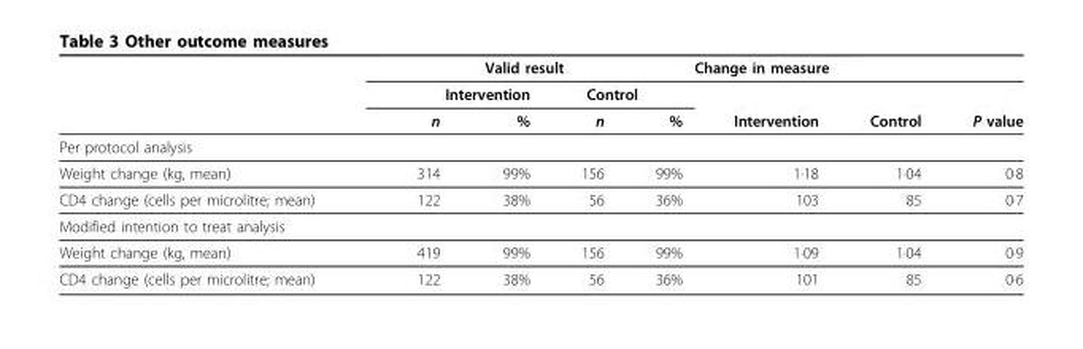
<table><thead><tr><td rowspan="3"></td><td colspan="4">Valid result</td><td colspan="3">Change in measure</td></tr><tr><td colspan="2">Intervention</td><td colspan="2">Control</td><td rowspan="2">Intervention</td><td rowspan="2">Control</td><td rowspan="2">P value</td></tr><tr><td>n</td><td>%</td><td>n</td><td>%</td></tr></thead><tbody><tr><td colspan="8">Per protocol analysis</td></tr><tr><td>Weight change (kg, mean)</td><td>314</td><td>99%</td><td>156</td><td>99%</td><td>1·18</td><td>1·04</td><td>0·8</td></tr><tr><td>CD4 change (cells per microlitre; mean)</td><td>122</td><td>38%</td><td>56</td><td>36%</td><td>103</td><td>85</td><td>0·7</td></tr><tr><td colspan="8">Modified intention to treat analysis</td></tr><tr><td>Weight change (kg, mean)</td><td>419</td><td>99%</td><td>156</td><td>99%</td><td>1·09</td><td>1·04</td><td>0·9</td></tr><tr><td>CD4 change (cells per microlitre; mean)</td><td>122</td><td>38%</td><td>56</td><td>36%</td><td>101</td><td>85</td><td>0·6</td></tr></tbody></table>